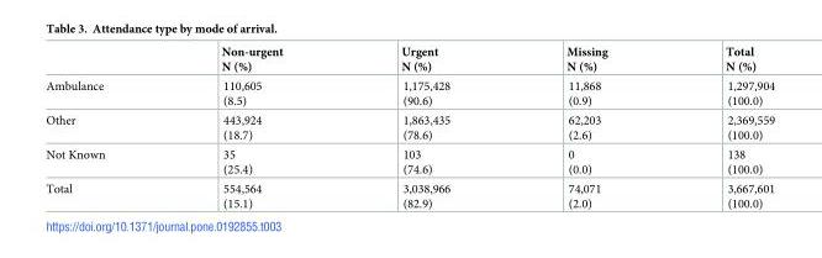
<table><thead><tr><td></td><td>Non-urgent N (%)</td><td>Urgent N (%)</td><td>Missing N (%)</td><td>Total N (%)</td></tr></thead><tbody><tr><td>Ambulance</td><td>110,605 (8.5)</td><td>1,175,428 (90.6)</td><td>11,868 (0.9)</td><td>1,297,904 (100.0)</td></tr><tr><td>Other</td><td>443,924 (18.7)</td><td>1,863,435 (78.6)</td><td>62,203 (2.6)</td><td>2,369,559 (100.0)</td></tr><tr><td>Not Known</td><td>35 (25.4)</td><td>103 (74.6)</td><td>0 (0.0)</td><td>138 (100.0)</td></tr><tr><td>Total</td><td>554,564 (15.1)</td><td>3,038,966 (82.9)</td><td>74,071 (2.0)</td><td>3,667,601 (100.0)</td></tr></tbody></table>